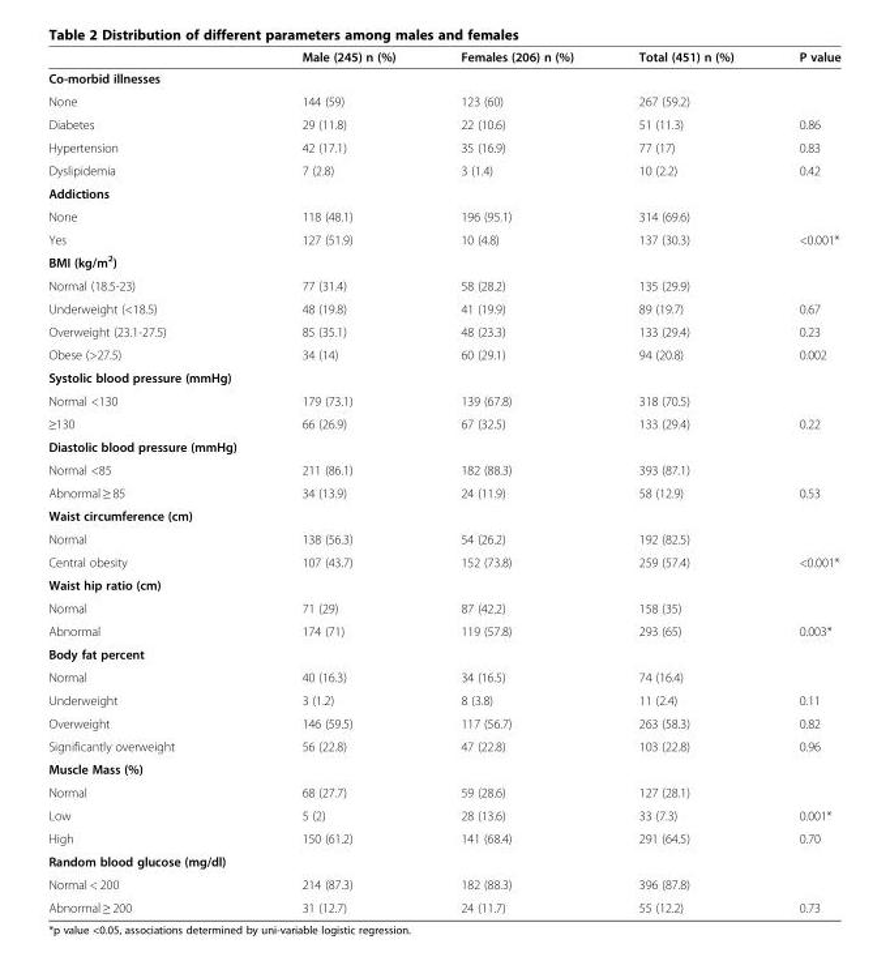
<table><thead><tr><td></td><td>Male (245) n (%)</td><td>Females (206) n (%)</td><td>Total (451) n (%)</td><td>P value</td></tr></thead><tbody><tr><td colspan="5">Co-morbid illnesses</td></tr><tr><td>None</td><td>144 (59)</td><td>123 (60)</td><td>267 (59.2)</td><td></td></tr><tr><td>Diabetes</td><td>29 (11.8)</td><td>22 (10.6)</td><td>51 (11.3)</td><td>0.86</td></tr><tr><td>Hypertension</td><td>42 (17.1)</td><td>35 (16.9)</td><td>77 (17)</td><td>0.83</td></tr><tr><td>Dyslipidemia</td><td>7 (2.8)</td><td>3 (1.4)</td><td>10 (2.2)</td><td>0.42</td></tr><tr><td colspan="5">Addictions</td></tr><tr><td>None</td><td>118 (48.1)</td><td>196 (95.1)</td><td>314 (69.6)</td><td></td></tr><tr><td>Yes</td><td>127 (51.9)</td><td>10 (4.8)</td><td>137 (30.3)</td><td>&lt;0.001*</td></tr><tr><td colspan="5">BMI (kg/m<sup>2</sup>)</td></tr><tr><td>Normal (18.5-23)</td><td>77 (31.4)</td><td>58 (28.2)</td><td>135 (29.9)</td><td></td></tr><tr><td>Underweight (&lt;18.5)</td><td>48 (19.8)</td><td>41 (19.9)</td><td>89 (19.7)</td><td>0.67</td></tr><tr><td>Overweight (23.1-27.5)</td><td>85 (35.1)</td><td>48 (23.3)</td><td>133 (29.4)</td><td>0.23</td></tr><tr><td>Obese (&gt;27.5)</td><td>34 (14)</td><td>60 (29.1)</td><td>94 (20.8)</td><td>0.002</td></tr><tr><td colspan="5">Systolic blood pressure (mmHg)</td></tr><tr><td>Normal &lt;130</td><td>179 (73.1)</td><td>139 (67.8)</td><td>318 (70.5)</td><td></td></tr><tr><td>≥130</td><td>66 (26.9)</td><td>67 (32.5)</td><td>133 (29.4)</td><td>0.22</td></tr><tr><td colspan="5">Diastolic blood pressure (mmHg)</td></tr><tr><td>Normal &lt;85</td><td>211 (86.1)</td><td>182 (88.3)</td><td>393 (87.1)</td><td></td></tr><tr><td>Abnormal ≥ 85</td><td>34 (13.9)</td><td>24 (11.9)</td><td>58 (12.9)</td><td>0.53</td></tr><tr><td colspan="5">Waist circumference (cm)</td></tr><tr><td>Normal</td><td>138 (56.3)</td><td>54 (26.2)</td><td>192 (82.5)</td><td></td></tr><tr><td>Central obesity</td><td>107 (43.7)</td><td>152 (73.8)</td><td>259 (57.4)</td><td>&lt;0.001*</td></tr><tr><td colspan="5">Waist hip ratio (cm)</td></tr><tr><td>Normal</td><td>71 (29)</td><td>87 (42.2)</td><td>158 (35)</td><td></td></tr><tr><td>Abnormal</td><td>174 (71)</td><td>119 (57.8)</td><td>293 (65)</td><td>0.003*</td></tr><tr><td colspan="5">Body fat percent</td></tr><tr><td>Normal</td><td>40 (16.3)</td><td>34 (16.5)</td><td>74 (16.4)</td><td></td></tr><tr><td>Underweight</td><td>3 (1.2)</td><td>8 (3.8)</td><td>11 (2.4)</td><td>0.11</td></tr><tr><td>Overweight</td><td>146 (59.5)</td><td>117 (56.7)</td><td>263 (58.3)</td><td>0.82</td></tr><tr><td>Significantly overweight</td><td>56 (22.8)</td><td>47 (22.8)</td><td>103 (22.8)</td><td>0.96</td></tr><tr><td colspan="5">Muscle Mass (%)</td></tr><tr><td>Normal</td><td>68 (27.7)</td><td>59 (28.6)</td><td>127 (28.1)</td><td></td></tr><tr><td>Low</td><td>5 (2)</td><td>28 (13.6)</td><td>33 (7.3)</td><td>0.001*</td></tr><tr><td>High</td><td>150 (61.2)</td><td>141 (68.4)</td><td>291 (64.5)</td><td>0.70</td></tr><tr><td colspan="5">Random blood glucose (mg/dl)</td></tr><tr><td>Normal &lt; 200</td><td>214 (87.3)</td><td>182 (88.3)</td><td>396 (87.8)</td><td></td></tr><tr><td>Abnormal ≥ 200</td><td>31 (12.7)</td><td>24 (11.7)</td><td>55 (12.2)</td><td>0.73</td></tr></tbody></table>